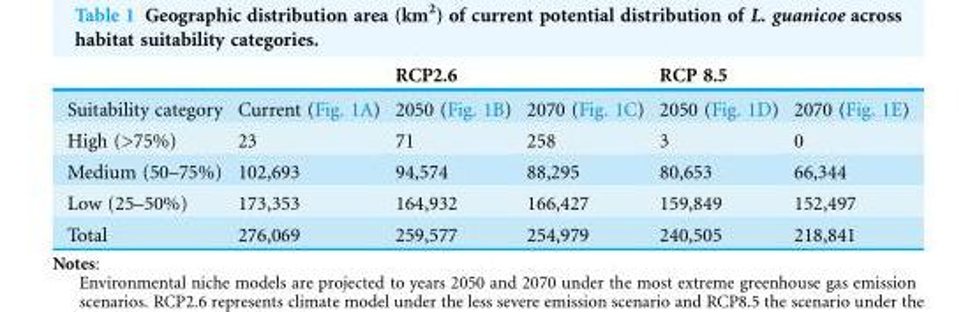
<table><thead><tr><td rowspan="2">Suitability category</td><td rowspan="2">Current (Fig. 1A)</td><td colspan="2">RCP2.6</td><td colspan="2">RCP 8.5</td></tr><tr><td>2050 (Fig. 1B)</td><td>2070 (Fig. 1C)</td><td>2050 (Fig. 1D)</td><td>2070 (Fig. 1E)</td></tr></thead><tbody><tr><td>High (&gt;75%)</td><td>23</td><td>71</td><td>258</td><td>3</td><td>0</td></tr><tr><td>Medium (50–75%)</td><td>102,693</td><td>94,574</td><td>88,295</td><td>80,653</td><td>66,344</td></tr><tr><td>Low (25–50%)</td><td>173,353</td><td>164,932</td><td>166,427</td><td>159,849</td><td>152,497</td></tr><tr><td>Total</td><td>276,069</td><td>259,577</td><td>254,979</td><td>240,505</td><td>218,841</td></tr></tbody></table>